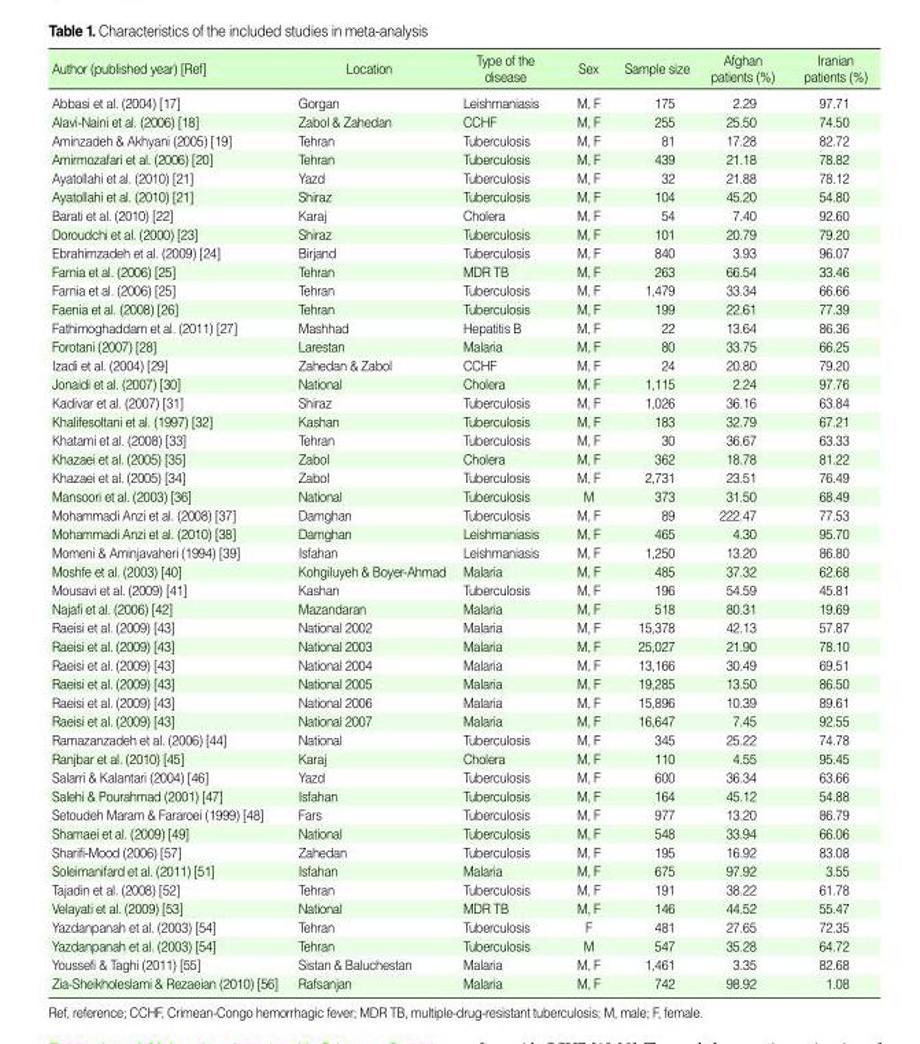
<table><thead><tr><td>Author (published year) [Ref]</td><td>Location</td><td>Type of the disease</td><td>Sex</td><td>Sample size</td><td>Afghan patients (%)</td><td>Iranian patients (%)</td></tr></thead><tbody><tr><td>Abbasi et al. (2004) [17]</td><td>Gorgan</td><td>Leishmaniasis</td><td>M, F</td><td>175</td><td>2.29</td><td>97.71</td></tr><tr><td>Alavi-Naini et al. (2006) [18]</td><td>Zabol &amp; Zahedan</td><td>CCHF</td><td>M, F</td><td>255</td><td>25.50</td><td>74.50</td></tr><tr><td>Aminzadeh &amp; Akhyani (2005) [19]</td><td>Tehran</td><td>Tuberculosis</td><td>M, F</td><td>81</td><td>17.28</td><td>82.72</td></tr><tr><td>Amirmozafari et al. (2006) [20]</td><td>Tehran</td><td>Tuberculosis</td><td>M, F</td><td>439</td><td>21.18</td><td>78.82</td></tr><tr><td>Ayatollahi et al. (2010) [21]</td><td>Yazd</td><td>Tuberculosis</td><td>M, F</td><td>32</td><td>21.88</td><td>78.12</td></tr><tr><td>Ayatollahi et al. (2010) [21]</td><td>Shiraz</td><td>Tuberculosis</td><td>M, F</td><td>104</td><td>45.20</td><td>54.80</td></tr><tr><td>Barati et al. (2010) [22]</td><td>Karaj</td><td>Cholera</td><td>M, F</td><td>54</td><td>7.40</td><td>92.60</td></tr><tr><td>Doroudchi et al. (2000) [23]</td><td>Shiraz</td><td>Tuberculosis</td><td>M, F</td><td>101</td><td>20.79</td><td>79.20</td></tr><tr><td>Ebrahimzadeh et al. (2009) [24]</td><td>Birjand</td><td>Tuberculosis</td><td>M, F</td><td>840</td><td>3.93</td><td>96.07</td></tr><tr><td>Farnia et al. (2006) [25]</td><td>Tehran</td><td>MDR TB</td><td>M, F</td><td>263</td><td>66.54</td><td>33.46</td></tr><tr><td>Farnia et al. (2006) [25]</td><td>Tehran</td><td>Tuberculosis</td><td>M, F</td><td>1,479</td><td>33.34</td><td>66.66</td></tr><tr><td>Faenia et al. (2008) [26]</td><td>Tehran</td><td>Tuberculosis</td><td>M, F</td><td>199</td><td>22.61</td><td>77.39</td></tr><tr><td>Fathimoghaddam et al. (2011) [27]</td><td>Mashhad</td><td>Hepatitis B</td><td>M, F</td><td>22</td><td>13.64</td><td>86.36</td></tr><tr><td>Forotani (2007) [28]</td><td>Larestan</td><td>Malaria</td><td>M, F</td><td>80</td><td>33.75</td><td>66.25</td></tr><tr><td>Izadi et al. (2004) [29]</td><td>Zahedan &amp; Zabol</td><td>CCHF</td><td>M, F</td><td>24</td><td>20.80</td><td>79.20</td></tr><tr><td>Jonaidi et al. (2007) [30]</td><td>National</td><td>Cholera</td><td>M, F</td><td>1,115</td><td>2.24</td><td>97.76</td></tr><tr><td>Kadivar et al. (2007) [31]</td><td>Shiraz</td><td>Tuberculosis</td><td>M, F</td><td>1,026</td><td>36.16</td><td>63.84</td></tr><tr><td>Khalifesoltani et al. (1997) [32]</td><td>Kashan</td><td>Tuberculosis</td><td>M, F</td><td>183</td><td>32.79</td><td>67.21</td></tr><tr><td>Khatami et al. (2008) [33]</td><td>Tehran</td><td>Tuberculosis</td><td>M, F</td><td>30</td><td>36.67</td><td>63.33</td></tr><tr><td>Khazaei et al. (2005) [35]</td><td>Zabol</td><td>Cholera</td><td>M, F</td><td>362</td><td>18.78</td><td>81.22</td></tr><tr><td>Khazaei et al. (2005) [34]</td><td>Zabol</td><td>Tuberculosis</td><td>M, F</td><td>2,731</td><td>23.51</td><td>76.49</td></tr><tr><td>Mansoori et al. (2003) [36]</td><td>National</td><td>Tuberculosis</td><td>M</td><td>373</td><td>31.50</td><td>68.49</td></tr><tr><td>Mohammadi Anzi et al. (2008) [37]</td><td>Damghan</td><td>Tuberculosis</td><td>M, F</td><td>89</td><td>222.47</td><td>77.53</td></tr><tr><td>Mohammadi Anzi et al. (2010) [38]</td><td>Damghan</td><td>Leishmaniasis</td><td>M, F</td><td>465</td><td>4.30</td><td>95.70</td></tr><tr><td>Momeni &amp; Aminjavaheri (1994) [39]</td><td>Isfahan</td><td>Leishmaniasis</td><td>M, F</td><td>1,250</td><td>13.20</td><td>86.80</td></tr><tr><td>Moshfe et al. (2003) [40]</td><td>Kohgiluyeh &amp; Boyer-Ahmad</td><td>Malaria</td><td>M, F</td><td>485</td><td>37.32</td><td>62.68</td></tr><tr><td>Mousavi et al. (2009) [41]</td><td>Kashan</td><td>Tuberculosis</td><td>M, F</td><td>196</td><td>54.59</td><td>45.81</td></tr><tr><td>Najafi et al. (2006) [42]</td><td>Mazandaran</td><td>Malaria</td><td>M, F</td><td>518</td><td>80.31</td><td>19.69</td></tr><tr><td>Raeisi et al. (2009) [43]</td><td>National 2002</td><td>Malaria</td><td>M, F</td><td>15,378</td><td>42.13</td><td>57.87</td></tr><tr><td>Raeisi et al. (2009) [43]</td><td>National 2003</td><td>Malaria</td><td>M, F</td><td>25,027</td><td>21.90</td><td>78.10</td></tr><tr><td>Raeisi et al. (2009) [43]</td><td>National 2004</td><td>Malaria</td><td>M, F</td><td>13,166</td><td>30.49</td><td>69.51</td></tr><tr><td>Raeisi et al. (2009) [43]</td><td>National 2005</td><td>Malaria</td><td>M, F</td><td>19,285</td><td>13.50</td><td>86.50</td></tr><tr><td>Raeisi et al. (2009) [43]</td><td>National 2006</td><td>Malaria</td><td>M, F</td><td>15,896</td><td>10.39</td><td>89.61</td></tr><tr><td>Raeisi et al. (2009) [43]</td><td>National 2007</td><td>Malaria</td><td>M, F</td><td>16,647</td><td>7.45</td><td>92.55</td></tr><tr><td>Ramazanzadeh et al. (2006) [44]</td><td>National</td><td>Tuberculosis</td><td>M, F</td><td>345</td><td>25.22</td><td>74.78</td></tr><tr><td>Ranjbar et al. (2010) [45]</td><td>Karaj</td><td>Cholera</td><td>M, F</td><td>110</td><td>4.55</td><td>95.45</td></tr><tr><td>Salarri &amp; Kalantari (2004) [46]</td><td>Yazd</td><td>Tuberculosis</td><td>M, F</td><td>600</td><td>36.34</td><td>63.66</td></tr><tr><td>Salehi &amp; Pourahmad (2001) [47]</td><td>Isfahan</td><td>Tuberculosis</td><td>M, F</td><td>164</td><td>45.12</td><td>54.88</td></tr><tr><td>Setoudeh Maram &amp; Fararoei (1999) [48]</td><td>Fars</td><td>Tuberculosis</td><td>M, F</td><td>977</td><td>13.20</td><td>86.79</td></tr><tr><td>Shamaei et al. (2009) [49]</td><td>National</td><td>Tuberculosis</td><td>M, F</td><td>548</td><td>33.94</td><td>66.06</td></tr><tr><td>Sharifi-Mood (2006) [57]</td><td>Zahedan</td><td>Tuberculosis</td><td>M, F</td><td>195</td><td>16.92</td><td>83.08</td></tr><tr><td>Soleimanifard et al. (2011) [51]</td><td>Isfahan</td><td>Malaria</td><td>M, F</td><td>675</td><td>97.92</td><td>3.55</td></tr><tr><td>Tajadin et al. (2008) [52]</td><td>Tehran</td><td>Tuberculosis</td><td>M, F</td><td>191</td><td>38.22</td><td>61.78</td></tr><tr><td>Velayati et al. (2009) [53]</td><td>National</td><td>MDR TB</td><td>M, F</td><td>146</td><td>44.52</td><td>55.47</td></tr><tr><td>Yazdanpanah et al. (2003) [54]</td><td>Tehran</td><td>Tuberculosis</td><td>F</td><td>481</td><td>27.65</td><td>72.35</td></tr><tr><td>Yazdanpanah et al. (2003) [54]</td><td>Tehran</td><td>Tuberculosis</td><td>M</td><td>547</td><td>35.28</td><td>64.72</td></tr><tr><td>Youssefi &amp; Taghi (2011) [55]</td><td>Sistan &amp; Baluchestan</td><td>Malaria</td><td>M, F</td><td>1,461</td><td>3.35</td><td>82.68</td></tr><tr><td>Zia-Sheikholeslami &amp; Rezaeian (2010) [56]</td><td>Rafsanjan</td><td>Malaria</td><td>M, F</td><td>742</td><td>98.92</td><td>1.08</td></tr></tbody></table>